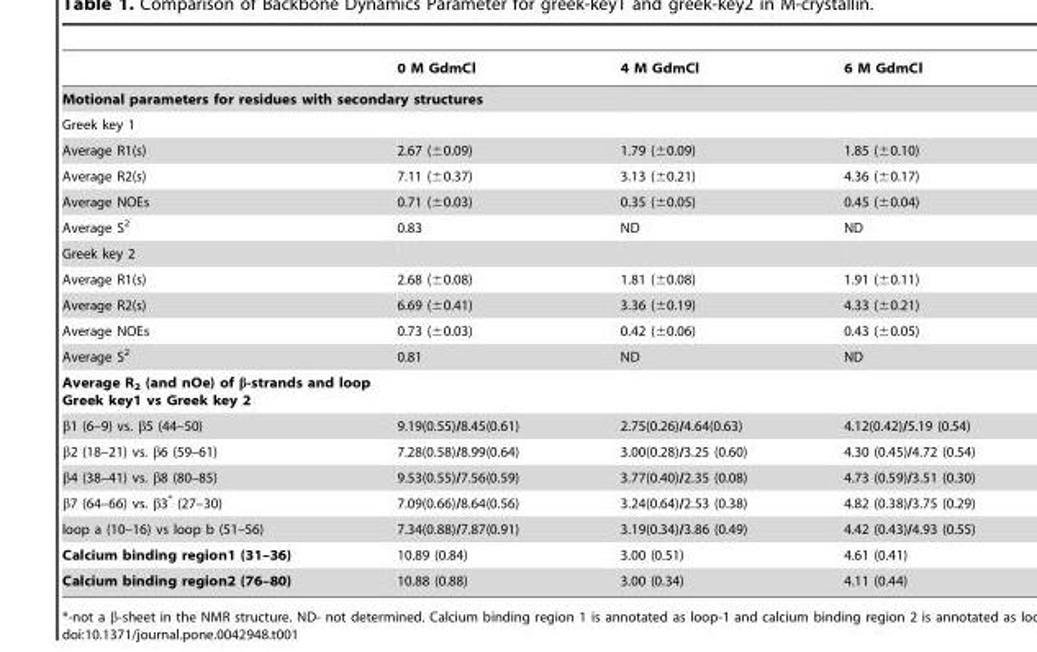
<table><thead><tr><td></td><td>0 M GdmCl</td><td>4 M GdmCl</td><td>6 M GdmCl</td></tr></thead><tbody><tr><td colspan="4">Motional parameters for residues with secondary structures</td></tr><tr><td colspan="4">Greek key 1</td></tr><tr><td>Average R1(s)</td><td>2.67 (±0.09)</td><td>1.79 (±0.09)</td><td>1.85 (±0.10)</td></tr><tr><td>Average R2(s)</td><td>7.11 (±0.37)</td><td>3.13 (±0.21)</td><td>4.36 (±0.17)</td></tr><tr><td>Average NOEs</td><td>0.71 (±0.03)</td><td>0.35 (±0.05)</td><td>0.45 (±0.04)</td></tr><tr><td>Average S<sup>2</sup></td><td>0.83</td><td>ND</td><td>ND</td></tr><tr><td colspan="4">Greek key 2</td></tr><tr><td>Average R1(s)</td><td>2.68 (±0.08)</td><td>1.81 (±0.08)</td><td>1.91 (±0.11)</td></tr><tr><td>Average R2(s)</td><td>6.69 (±0.41)</td><td>3.36 (±0.19)</td><td>4.33 (±0.21)</td></tr><tr><td>Average NOEs</td><td>0.73 (±0.03)</td><td>0.42 (±0.06)</td><td>0.43 (±0.05)</td></tr><tr><td>Average S<sup>2</sup></td><td>0.81</td><td>ND</td><td>ND</td></tr><tr><td colspan="4">Average R<sub>2</sub> (and nOe) of β-strands and loop Greek key1 vs Greek key 2</td></tr><tr><td>β1 (6–9) vs. β5 (44–50)</td><td>9.19(0.55)/8.45(0.61)</td><td>2.75(0.26)/4.64(0.63)</td><td>4.12(0.42)/5.19 (0.54)</td></tr><tr><td>β2 (18–21) vs. β6 (59–61)</td><td>7.28(0.58)/8.99(0.64)</td><td>3.00(0.28)/3.25 (0.60)</td><td>4.30 (0.45)/4.72 (0.54)</td></tr><tr><td>β4 (38–41) vs. β8 (80–85)</td><td>9.53(0.55)/7.56(0.59)</td><td>3.77(0.40)/2.35 (0.08)</td><td>4.73 (0.59)/3.51 (0.30)</td></tr><tr><td>β7 (64–66) vs. β3* (27–30)</td><td>7.09(0.66)/8.64(0.56)</td><td>3.24(0.64)/2.53 (0.38)</td><td>4.82 (0.38)/3.75 (0.29)</td></tr><tr><td>loop a (10–16) vs loop b (51–56)</td><td>7.34(0.88)/7.87(0.91)</td><td>3.19(0.34)/3.86 (0.49)</td><td>4.42 (0.43)/4.93 (0.55)</td></tr><tr><td>Calcium binding region1 (31–36)</td><td>10.89 (0.84)</td><td>3.00 (0.51)</td><td>4.61 (0.41)</td></tr><tr><td>Calcium binding region2 (76–80)</td><td>10.88 (0.88)</td><td>3.00 (0.34)</td><td>4.11 (0.44)</td></tr></tbody></table>